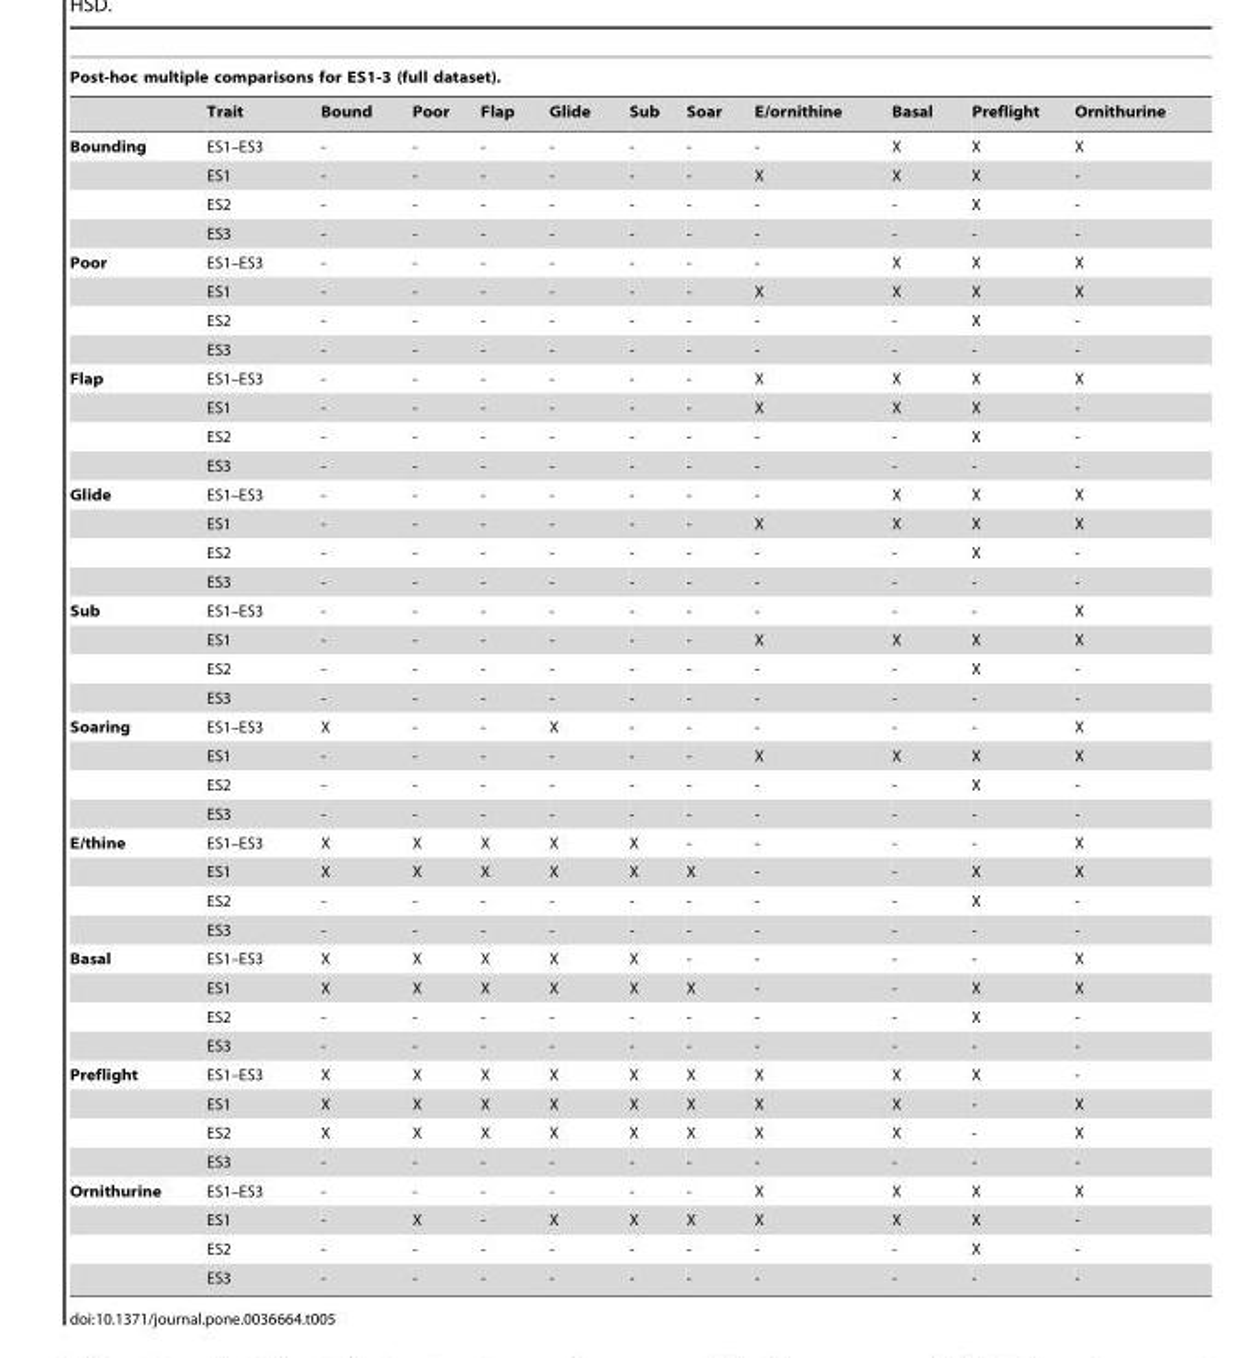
<table><thead><tr><td colspan="12">Post-hoc multiple comparisons for ES1-3 (full dataset).</td></tr><tr><td></td><td>Trait</td><td>Bound</td><td>Poor</td><td>Flap</td><td>Glide</td><td>Sub</td><td>Soar</td><td>E/ornithine</td><td>Basal</td><td>Preflight</td><td>Ornithurine</td></tr></thead><tbody><tr><td rowspan="4">Bounding</td><td>ES1–ES3</td><td>-</td><td>-</td><td>-</td><td>-</td><td>-</td><td>-</td><td>-</td><td>X</td><td>X</td><td>X</td></tr><tr><td>ES1</td><td>-</td><td>-</td><td>-</td><td>-</td><td>-</td><td>-</td><td>X</td><td>X</td><td>X</td><td>-</td></tr><tr><td>ES2</td><td>-</td><td>-</td><td>-</td><td>-</td><td>-</td><td>-</td><td>-</td><td>-</td><td>X</td><td>-</td></tr><tr><td>ES3</td><td>-</td><td>-</td><td>-</td><td>-</td><td>-</td><td>-</td><td>-</td><td>-</td><td>-</td><td>-</td></tr><tr><td rowspan="4">Poor</td><td>ES1–ES3</td><td>-</td><td>-</td><td>-</td><td>-</td><td>-</td><td>-</td><td>-</td><td>X</td><td>X</td><td>X</td></tr><tr><td>ES1</td><td>-</td><td>-</td><td>-</td><td>-</td><td>-</td><td>-</td><td>X</td><td>X</td><td>X</td><td>X</td></tr><tr><td>ES2</td><td>-</td><td>-</td><td>-</td><td>-</td><td>-</td><td>-</td><td>-</td><td>-</td><td>X</td><td>-</td></tr><tr><td>ES3</td><td>-</td><td>-</td><td>-</td><td>-</td><td>-</td><td>-</td><td>-</td><td>-</td><td>-</td><td>-</td></tr><tr><td rowspan="4">Flap</td><td>ES1–ES3</td><td>-</td><td>-</td><td>-</td><td>-</td><td>-</td><td>-</td><td>X</td><td>X</td><td>X</td><td>X</td></tr><tr><td>ES1</td><td>-</td><td>-</td><td>-</td><td>-</td><td>-</td><td>-</td><td>X</td><td>X</td><td>X</td><td>-</td></tr><tr><td>ES2</td><td>-</td><td>-</td><td>-</td><td>-</td><td>-</td><td>-</td><td>-</td><td>-</td><td>X</td><td>-</td></tr><tr><td>ES3</td><td>-</td><td>-</td><td>-</td><td>-</td><td>-</td><td>-</td><td>-</td><td>-</td><td>-</td><td>-</td></tr><tr><td rowspan="4">Glide</td><td>ES1–ES3</td><td>-</td><td>-</td><td>-</td><td>-</td><td>-</td><td>-</td><td>-</td><td>X</td><td>X</td><td>X</td></tr><tr><td>ES1</td><td>-</td><td>-</td><td>-</td><td>-</td><td>-</td><td>-</td><td>X</td><td>X</td><td>X</td><td>X</td></tr><tr><td>ES2</td><td>-</td><td>-</td><td>-</td><td>-</td><td>-</td><td>-</td><td>-</td><td>-</td><td>X</td><td>-</td></tr><tr><td>ES3</td><td>-</td><td>-</td><td>-</td><td>-</td><td>-</td><td>-</td><td>-</td><td>-</td><td>-</td><td>-</td></tr><tr><td rowspan="4">Sub</td><td>ES1–ES3</td><td>-</td><td>-</td><td>-</td><td>-</td><td>-</td><td>-</td><td>-</td><td>-</td><td>-</td><td>X</td></tr><tr><td>ES1</td><td>-</td><td>-</td><td>-</td><td>-</td><td>-</td><td>-</td><td>X</td><td>X</td><td>X</td><td>X</td></tr><tr><td>ES2</td><td>-</td><td>-</td><td>-</td><td>-</td><td>-</td><td>-</td><td>-</td><td>-</td><td>X</td><td>-</td></tr><tr><td>ES3</td><td>-</td><td>-</td><td>-</td><td>-</td><td>-</td><td>-</td><td>-</td><td>-</td><td>-</td><td>-</td></tr><tr><td rowspan="4">Soaring</td><td>ES1–ES3</td><td>X</td><td>-</td><td>-</td><td>X</td><td>-</td><td>-</td><td>-</td><td>-</td><td>-</td><td>X</td></tr><tr><td>ES1</td><td>-</td><td>-</td><td>-</td><td>-</td><td>-</td><td>-</td><td>X</td><td>X</td><td>X</td><td>X</td></tr><tr><td>ES2</td><td>-</td><td>-</td><td>-</td><td>-</td><td>-</td><td>-</td><td>-</td><td>-</td><td>X</td><td>-</td></tr><tr><td>ES3</td><td>-</td><td>-</td><td>-</td><td>-</td><td>-</td><td>-</td><td>-</td><td>-</td><td>-</td><td>-</td></tr><tr><td rowspan="4">E/thine</td><td>ES1–ES3</td><td>X</td><td>X</td><td>X</td><td>X</td><td>X</td><td>-</td><td>-</td><td>-</td><td>-</td><td>X</td></tr><tr><td>ES1</td><td>X</td><td>X</td><td>X</td><td>X</td><td>X</td><td>X</td><td>-</td><td>-</td><td>X</td><td>X</td></tr><tr><td>ES2</td><td>-</td><td>-</td><td>-</td><td>-</td><td>-</td><td>-</td><td>-</td><td>-</td><td>X</td><td>-</td></tr><tr><td>ES3</td><td>-</td><td>-</td><td>-</td><td>-</td><td>-</td><td>-</td><td>-</td><td>-</td><td>-</td><td>-</td></tr><tr><td rowspan="4">Basal</td><td>ES1–ES3</td><td>X</td><td>X</td><td>X</td><td>X</td><td>X</td><td>-</td><td>-</td><td>-</td><td>-</td><td>X</td></tr><tr><td>ES1</td><td>X</td><td>X</td><td>X</td><td>X</td><td>X</td><td>X</td><td>-</td><td>-</td><td>X</td><td>X</td></tr><tr><td>ES2</td><td>-</td><td>-</td><td>-</td><td>-</td><td>-</td><td>-</td><td>-</td><td>-</td><td>X</td><td>-</td></tr><tr><td>ES3</td><td>-</td><td>-</td><td>-</td><td>-</td><td>-</td><td>-</td><td>-</td><td>-</td><td>-</td><td>-</td></tr><tr><td rowspan="4">Preflight</td><td>ES1–ES3</td><td>X</td><td>X</td><td>X</td><td>X</td><td>X</td><td>X</td><td>X</td><td>X</td><td>X</td><td>-</td></tr><tr><td>ES1</td><td>X</td><td>X</td><td>X</td><td>X</td><td>X</td><td>X</td><td>X</td><td>X</td><td>-</td><td>X</td></tr><tr><td>ES2</td><td>X</td><td>X</td><td>X</td><td>X</td><td>X</td><td>X</td><td>X</td><td>X</td><td>-</td><td>X</td></tr><tr><td>ES3</td><td>-</td><td>-</td><td>-</td><td>-</td><td>-</td><td>-</td><td>-</td><td>-</td><td>-</td><td>-</td></tr><tr><td rowspan="4">Ornithurine</td><td>ES1–ES3</td><td>-</td><td>-</td><td>-</td><td>-</td><td>-</td><td>-</td><td>X</td><td>X</td><td>X</td><td>X</td></tr><tr><td>ES1</td><td>-</td><td>X</td><td>-</td><td>X</td><td>X</td><td>X</td><td>X</td><td>X</td><td>X</td><td>-</td></tr><tr><td>ES2</td><td>-</td><td>-</td><td>-</td><td>-</td><td>-</td><td>-</td><td>-</td><td>-</td><td>X</td><td>-</td></tr><tr><td>ES3</td><td>-</td><td>-</td><td>-</td><td>-</td><td>-</td><td>-</td><td>-</td><td>-</td><td>-</td><td>-</td></tr></tbody></table>